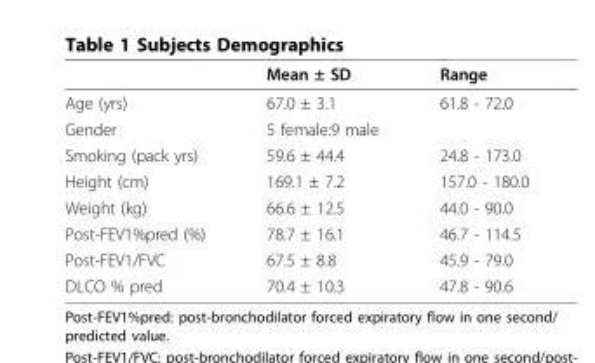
<table><thead><tr><td></td><td>Mean ± SD</td><td>Range</td></tr></thead><tbody><tr><td>Age (yrs)</td><td>67.0 ± 3.1</td><td>61.8 - 72.0</td></tr><tr><td>Gender</td><td>5 female:9 male</td><td></td></tr><tr><td>Smoking (pack yrs)</td><td>59.6 ± 44.4</td><td>24.8 - 173.0</td></tr><tr><td>Height (cm)</td><td>169.1 ± 7.2</td><td>157.0 - 180.0</td></tr><tr><td>Weight (kg)</td><td>66.6 ± 12.5</td><td>44.0 - 90.0</td></tr><tr><td>Post-FEV1%pred (%)</td><td>78.7 ± 16.1</td><td>46.7 - 114.5</td></tr><tr><td>Post-FEV1/FVC</td><td>67.5 ± 8.8</td><td>45.9 - 79.0</td></tr><tr><td>DLCO % pred</td><td>70.4 ± 10.3</td><td>47.8 - 90.6</td></tr></tbody></table>